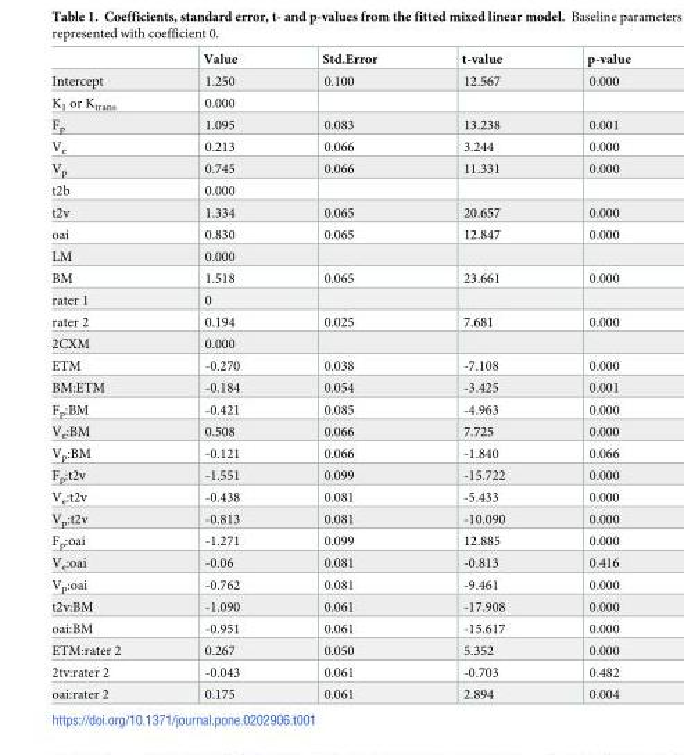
<table><thead><tr><td></td><td>Value</td><td>Std.Error</td><td>t-value</td><td>p-value</td></tr></thead><tbody><tr><td>Intercept</td><td>1.250</td><td>0.100</td><td>12.567</td><td>0.000</td></tr><tr><td>K<sub>1</sub> or K<sub>trans</sub></td><td>0.000</td><td></td><td></td><td></td></tr><tr><td>F<sub>p</sub></td><td>1.095</td><td>0.083</td><td>13.238</td><td>0.001</td></tr><tr><td>V<sub>e</sub></td><td>0.213</td><td>0.066</td><td>3.244</td><td>0.000</td></tr><tr><td>V<sub>p</sub></td><td>0.745</td><td>0.066</td><td>11.331</td><td>0.000</td></tr><tr><td>t2b</td><td>0.000</td><td></td><td></td><td></td></tr><tr><td>t2v</td><td>1.334</td><td>0.065</td><td>20.657</td><td>0.000</td></tr><tr><td>oai</td><td>0.830</td><td>0.065</td><td>12.847</td><td>0.000</td></tr><tr><td>LM</td><td>0.000</td><td></td><td></td><td></td></tr><tr><td>BM</td><td>1.518</td><td>0.065</td><td>23.661</td><td>0.000</td></tr><tr><td>rater 1</td><td>0</td><td></td><td></td><td></td></tr><tr><td>rater 2</td><td>0.194</td><td>0.025</td><td>7.681</td><td>0.000</td></tr><tr><td>2CXM</td><td>0.000</td><td></td><td></td><td></td></tr><tr><td>ETM</td><td>-0.270</td><td>0.038</td><td>-7.108</td><td>0.000</td></tr><tr><td>BM:ETM</td><td>-0.184</td><td>0.054</td><td>-3.425</td><td>0.001</td></tr><tr><td>F<sub>p</sub>:BM</td><td>-0.421</td><td>0.085</td><td>-4.963</td><td>0.000</td></tr><tr><td>V<sub>e</sub>:BM</td><td>0.508</td><td>0.066</td><td>7.725</td><td>0.000</td></tr><tr><td>V<sub>p</sub>:BM</td><td>-0.121</td><td>0.066</td><td>-1.840</td><td>0.066</td></tr><tr><td>F<sub>p</sub>:t2v</td><td>-1.551</td><td>0.099</td><td>-15.722</td><td>0.000</td></tr><tr><td>V<sub>e</sub>:t2v</td><td>-0.438</td><td>0.081</td><td>-5.433</td><td>0.000</td></tr><tr><td>V<sub>p</sub>:t2v</td><td>-0.813</td><td>0.081</td><td>-10.090</td><td>0.000</td></tr><tr><td>F<sub>p</sub>:oai</td><td>-1.271</td><td>0.099</td><td>12.885</td><td>0.000</td></tr><tr><td>V<sub>e</sub>:oai</td><td>-0.06</td><td>0.081</td><td>-0.813</td><td>0.416</td></tr><tr><td>V<sub>p</sub>:oai</td><td>-0.762</td><td>0.081</td><td>-9.461</td><td>0.000</td></tr><tr><td>t2v:BM</td><td>-1.090</td><td>0.061</td><td>-17.908</td><td>0.000</td></tr><tr><td>oai:BM</td><td>-0.951</td><td>0.061</td><td>-15.617</td><td>0.000</td></tr><tr><td>ETM:rater 2</td><td>0.267</td><td>0.050</td><td>5.352</td><td>0.000</td></tr><tr><td>2tv:rater 2</td><td>-0.043</td><td>0.061</td><td>-0.703</td><td>0.482</td></tr><tr><td>oai:rater 2</td><td>0.175</td><td>0.061</td><td>2.894</td><td>0.004</td></tr></tbody></table>